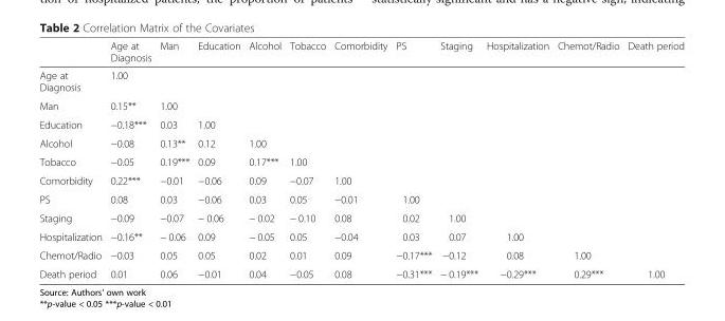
<table><thead><tr><td></td><td>Age at Diagnosis</td><td>Man</td><td>Education</td><td>Alcohol</td><td>Tobacco</td><td>Comorbidity</td><td>PS</td><td>Staging</td><td>Hospitalization</td><td>Chemot/Radio</td><td>Death period</td></tr></thead><tbody><tr><td>Age at Diagnosis</td><td>1.00</td><td></td><td></td><td></td><td></td><td></td><td></td><td></td><td></td><td></td><td></td></tr><tr><td>Man</td><td>0.15**</td><td>1.00</td><td></td><td></td><td></td><td></td><td></td><td></td><td></td><td></td><td></td></tr><tr><td>Education</td><td>−0.18***</td><td>0.03</td><td>1.00</td><td></td><td></td><td></td><td></td><td></td><td></td><td></td><td></td></tr><tr><td>Alcohol</td><td>−0.08</td><td>0.13**</td><td>0.12</td><td>1.00</td><td></td><td></td><td></td><td></td><td></td><td></td><td></td></tr><tr><td>Tobacco</td><td>−0.05</td><td>0.19***</td><td>0.09</td><td>0.17***</td><td>1.00</td><td></td><td></td><td></td><td></td><td></td><td></td></tr><tr><td>Comorbidity</td><td>0.22***</td><td>−0.01</td><td>−0.06</td><td>0.09</td><td>−0.07</td><td>1.00</td><td></td><td></td><td></td><td></td><td></td></tr><tr><td>PS</td><td>0.08</td><td>0.03</td><td>−0.06</td><td>0.03</td><td>0.05</td><td>−0.01</td><td>1.00</td><td></td><td></td><td></td><td></td></tr><tr><td>Staging</td><td>−0.09</td><td>−0.07</td><td>− 0.06</td><td>− 0.02</td><td>− 0.10</td><td>0.08</td><td>0.02</td><td>1.00</td><td></td><td></td><td></td></tr><tr><td>Hospitalization</td><td>−0.16**</td><td>− 0.06</td><td>0.09</td><td>− 0.05</td><td>0.05</td><td>−0.04</td><td>0.03</td><td>0.07</td><td>1.00</td><td></td><td></td></tr><tr><td>Chemot/Radio</td><td>−0.03</td><td>0.05</td><td>0.05</td><td>0.02</td><td>0.01</td><td>0.09</td><td>−0.17***</td><td>−0.12</td><td>0.08</td><td>1.00</td><td></td></tr><tr><td>Death period</td><td>0.01</td><td>0.06</td><td>−0.01</td><td>0.04</td><td>−0.05</td><td>0.08</td><td>−0.31***</td><td>− 0.19***</td><td>−0.29***</td><td>0.29***</td><td>1.00</td></tr></tbody></table>